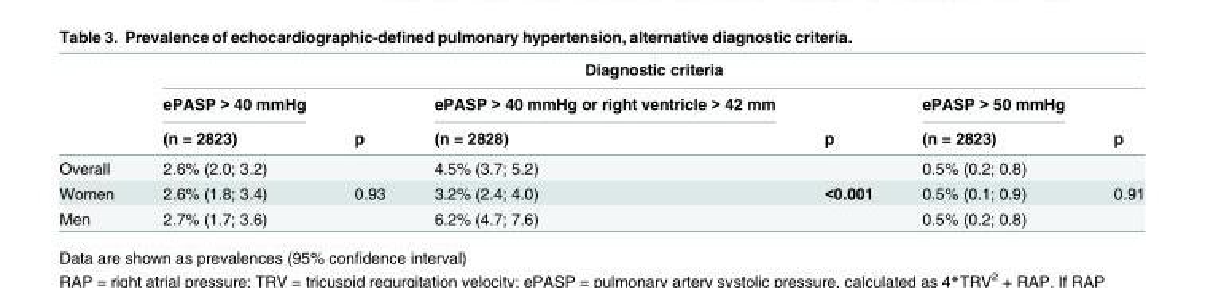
<table><thead><tr><td rowspan="3"></td><td colspan="6">Diagnostic criteria</td></tr><tr><td rowspan="2">ePASP &gt; 40 mmHg (n = 2823)</td><td rowspan="2">p</td><td rowspan="2">ePASP &gt; 40 mmHg or right ventricle &gt; 42 mm (n = 2828)</td><td rowspan="2">p</td><td rowspan="2">ePASP &gt; 50 mmHg (n = 2823)</td><td rowspan="2">p</td></tr><tr></tr></thead><tbody><tr><td>Overall</td><td>2.6% (2.0; 3.2)</td><td></td><td>4.5% (3.7; 5.2)</td><td></td><td>0.5% (0.2; 0.8)</td><td></td></tr><tr><td>Women</td><td>2.6% (1.8; 3.4)</td><td>0.93</td><td>3.2% (2.4; 4.0)</td><td>&lt;0.001</td><td>0.5% (0.1; 0.9)</td><td>0.91</td></tr><tr><td>Men</td><td>2.7% (1.7; 3.6)</td><td></td><td>6.2% (4.7; 7.6)</td><td></td><td>0.5% (0.2; 0.8)</td><td></td></tr></tbody></table>